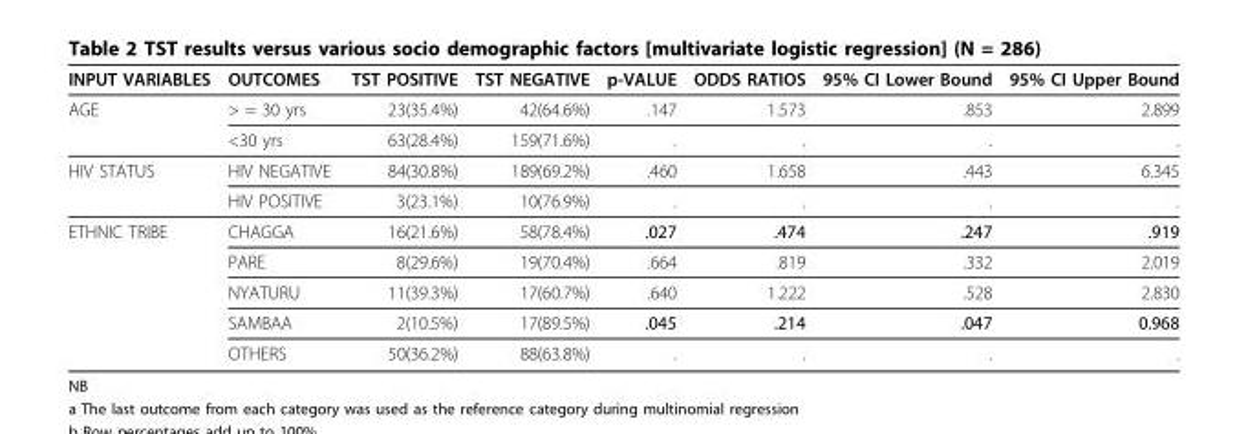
<table><thead><tr><td>INPUT VARIABLES</td><td>OUTCOMES</td><td>TST POSITIVE</td><td>TST NEGATIVE</td><td>p-VALUE</td><td>ODDS RATIOS</td><td>95% CI Lower Bound</td><td>95% CI Upper Bound</td></tr></thead><tbody><tr><td rowspan="2">AGE</td><td>&gt; = 30 yrs</td><td>23(35.4%)</td><td>42(64.6%)</td><td>.147</td><td>1.573</td><td>.853</td><td>2.899</td></tr><tr><td>&lt;30 yrs</td><td>63(28.4%)</td><td>159(71.6%)</td><td>.</td><td>.</td><td>.</td><td>.</td></tr><tr><td rowspan="2">HIV STATUS</td><td>HIV NEGATIVE</td><td>84(30.8%)</td><td>189(69.2%)</td><td>.460</td><td>1.658</td><td>.443</td><td>6.345</td></tr><tr><td>HIV POSITIVE</td><td>3(23.1%)</td><td>10(76.9%)</td><td>.</td><td>.</td><td>.</td><td>.</td></tr><tr><td rowspan="5">ETHNIC TRIBE</td><td>CHAGGA</td><td>16(21.6%)</td><td>58(78.4%)</td><td>.027</td><td>.474</td><td>.247</td><td>.919</td></tr><tr><td>PARE</td><td>8(29.6%)</td><td>19(70.4%)</td><td>.664</td><td>.819</td><td>.332</td><td>2.019</td></tr><tr><td>NYATURU</td><td>11(39.3%)</td><td>17(60.7%)</td><td>.640</td><td>1.222</td><td>.528</td><td>2.830</td></tr><tr><td>SAMBAA</td><td>2(10.5%)</td><td>17(89.5%)</td><td>.045</td><td>.214</td><td>.047</td><td>0.968</td></tr><tr><td>OTHERS</td><td>50(36.2%)</td><td>88(63.8%)</td><td>.</td><td>.</td><td>.</td><td>.</td></tr></tbody></table>